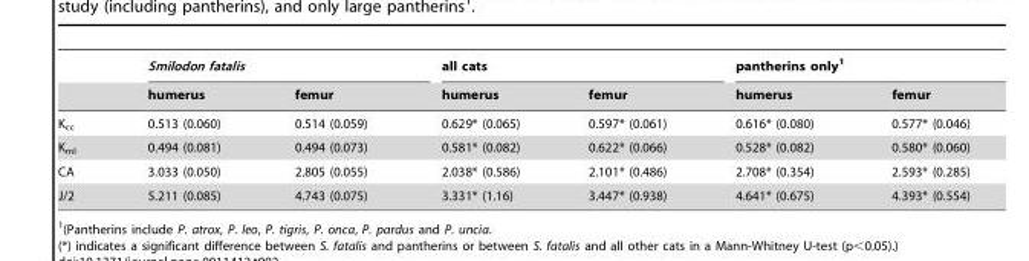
<table><thead><tr><td rowspan="2"></td><td colspan="2">Smilodon fatalis</td><td colspan="2">all cats</td><td colspan="2">pantherins only<sup>1</sup></td></tr><tr><td>humerus</td><td>femur</td><td>humerus</td><td>femur</td><td>humerus</td><td>femur</td></tr></thead><tbody><tr><td>K<sub>cc</sub></td><td>0.513 (0.060)</td><td>0.514 (0.059)</td><td>0.629* (0.065)</td><td>0.597* (0.061)</td><td>0.616* (0.080)</td><td>0.577* (0.046)</td></tr><tr><td>K<sub>ml</sub></td><td>0.494 (0.081)</td><td>0.494 (0.073)</td><td>0.581* (0.082)</td><td>0.622* (0.066)</td><td>0.528* (0.082)</td><td>0.580* (0.060)</td></tr><tr><td>CA</td><td>3.033 (0.050)</td><td>2.805 (0.055)</td><td>2.038* (0.586)</td><td>2.101* (0.486)</td><td>2.708* (0.354)</td><td>2.593* (0.285)</td></tr><tr><td>J/2</td><td>5.211 (0.085)</td><td>4.743 (0.075)</td><td>3.331* (1.16)</td><td>3.447* (0.938)</td><td>4.641* (0.675)</td><td>4.393* (0.554)</td></tr></tbody></table>